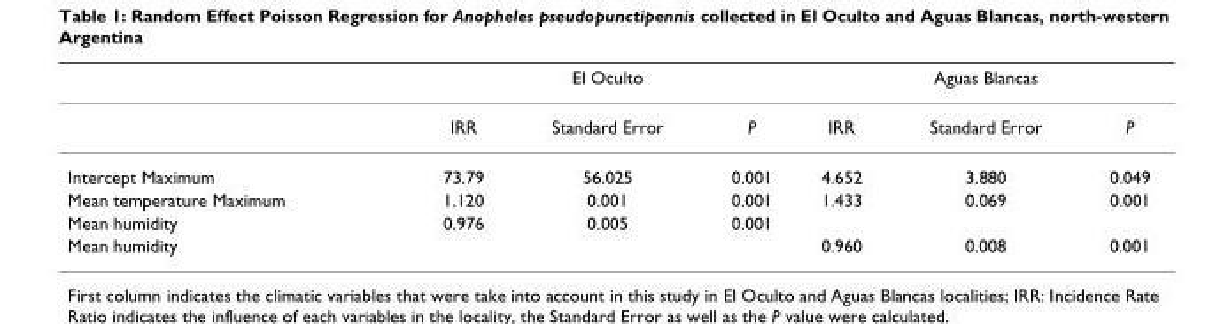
<table><thead><tr><td rowspan="2"></td><td colspan="3">El Oculto</td><td colspan="3">Aguas Blancas</td></tr><tr><td>IRR</td><td>Standard Error</td><td>P</td><td>IRR</td><td>Standard Error</td><td>P</td></tr></thead><tbody><tr><td>Intercept Maximum</td><td>73.79</td><td>56.025</td><td>0.001</td><td>4.652</td><td>3.880</td><td>0.049</td></tr><tr><td>Mean temperature Maximum</td><td>1.120</td><td>0.001</td><td>0.001</td><td>1.433</td><td>0.069</td><td>0.001</td></tr><tr><td>Mean humidity</td><td>0.976</td><td>0.005</td><td>0.001</td><td></td><td></td><td></td></tr><tr><td>Mean humidity</td><td></td><td></td><td></td><td>0.960</td><td>0.008</td><td>0.001</td></tr></tbody></table>